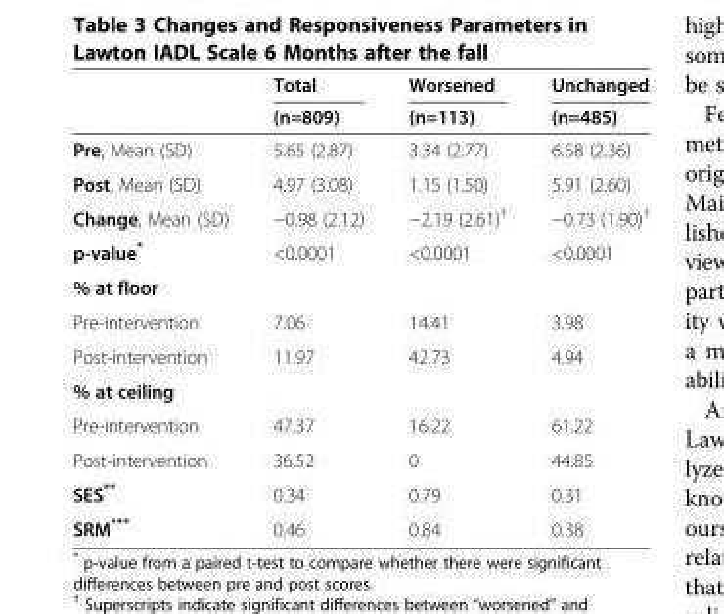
<table><thead><tr><td rowspan="2"></td><td rowspan="2">Total (n=809)</td><td rowspan="2">Worsened (n=113)</td><td rowspan="2">Unchanged (n=485)</td></tr><tr></tr></thead><tbody><tr><td>Pre, Mean (SD)</td><td>5.65 (2.87)</td><td>3.34 (2.77)</td><td>6.58 (2.36)</td></tr><tr><td>Post, Mean (SD)</td><td>4.97 (3.08)</td><td>1.15 (1.50)</td><td>5.91 (2.60)</td></tr><tr><td>Change, Mean (SD)</td><td>−0.98 (2.12)</td><td>−2.19 (2.61)<sup>†</sup></td><td>−0.73 (1.90)<sup>†</sup></td></tr><tr><td>p-value*</td><td>&lt;0.0001</td><td>&lt;0.0001</td><td>&lt;0.0001</td></tr><tr><td colspan="4">% at floor</td></tr><tr><td>Pre-intervention</td><td>7.06</td><td>14.41</td><td>3.98</td></tr><tr><td>Post-intervention</td><td>11.97</td><td>42.73</td><td>4.94</td></tr><tr><td colspan="4">% at ceiling</td></tr><tr><td>Pre-intervention</td><td>47.37</td><td>16.22</td><td>61.22</td></tr><tr><td>Post-intervention</td><td>36.52</td><td>0</td><td>44.85</td></tr><tr><td>SES**</td><td>0.34</td><td>0.79</td><td>0.31</td></tr><tr><td>SRM***</td><td>0.46</td><td>0.84</td><td>0.38</td></tr></tbody></table>